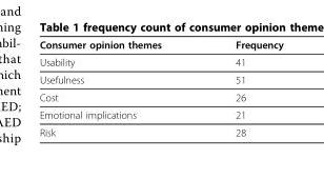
<table><thead><tr><td>Consumer opinion themes</td><td>Frequency</td></tr></thead><tbody><tr><td>Usability</td><td>41</td></tr><tr><td>Usefulness</td><td>51</td></tr><tr><td>Cost</td><td>26</td></tr><tr><td>Emotional implications</td><td>21</td></tr><tr><td>Risk</td><td>28</td></tr></tbody></table>